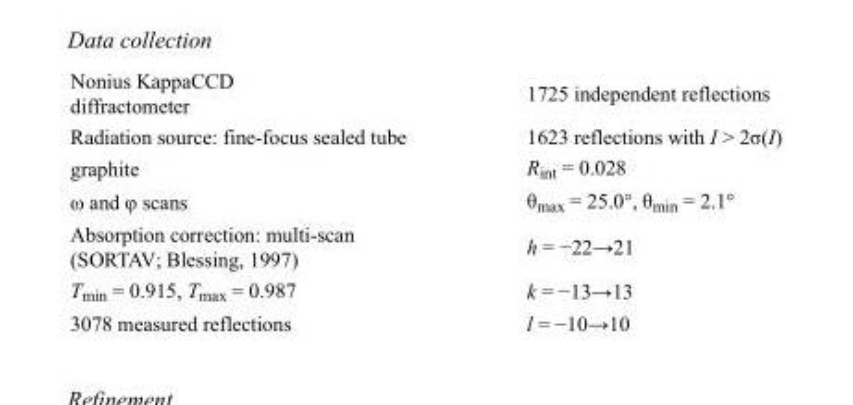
<table><tbody><tr><td>Nonius KappaCCD diffractometer</td><td>1725 independent reflections</td></tr><tr><td>Radiation source: fine-focus sealed tube</td><td>1623 reflections with I &gt; 2σ(I)</td></tr><tr><td>graphite</td><td>R<sub>int</sub> = 0.028</td></tr><tr><td>ω and φ scans</td><td>θ<sub>max</sub> = 25.0°, θ<sub>min</sub> = 2.1°</td></tr><tr><td>Absorption correction: multi-scan (SORTAV; Blessing, 1997)</td><td>h = −22→21</td></tr><tr><td>T<sub>min</sub> = 0.915, T<sub>max</sub> = 0.987</td><td>k = −13→13</td></tr><tr><td>3078 measured reflections</td><td>l = −10→10</td></tr></tbody></table>